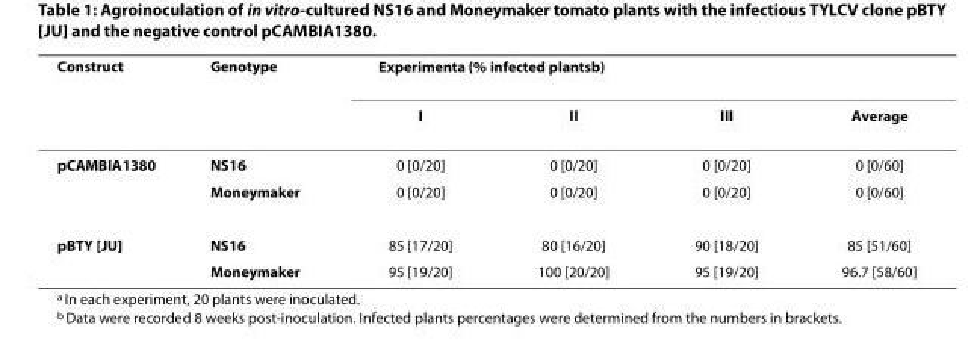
<table><thead><tr><td rowspan="2">Construct</td><td rowspan="2">Genotype</td><td colspan="4">Experiment<sup>a</sup> (% infected plants<sup>b</sup>)</td></tr><tr><td>I</td><td>II</td><td>III</td><td>Average</td></tr></thead><tbody><tr><td rowspan="2">pCAMBIA1380</td><td>NS16</td><td>0 [0/20]</td><td>0 [0/20]</td><td>0 [0/20]</td><td>0 [0/60]</td></tr><tr><td>Moneymaker</td><td>0 [0/20]</td><td>0 [0/20]</td><td>0 [0/20]</td><td>0 [0/60]</td></tr><tr><td rowspan="2">pBTY [JU]</td><td>NS16</td><td>85 [17/20]</td><td>80 [16/20]</td><td>90 [18/20]</td><td>85 [51/60]</td></tr><tr><td>Moneymaker</td><td>95 [19/20]</td><td>100 [20/20]</td><td>95 [19/20]</td><td>96.7 [58/60]</td></tr></tbody></table>